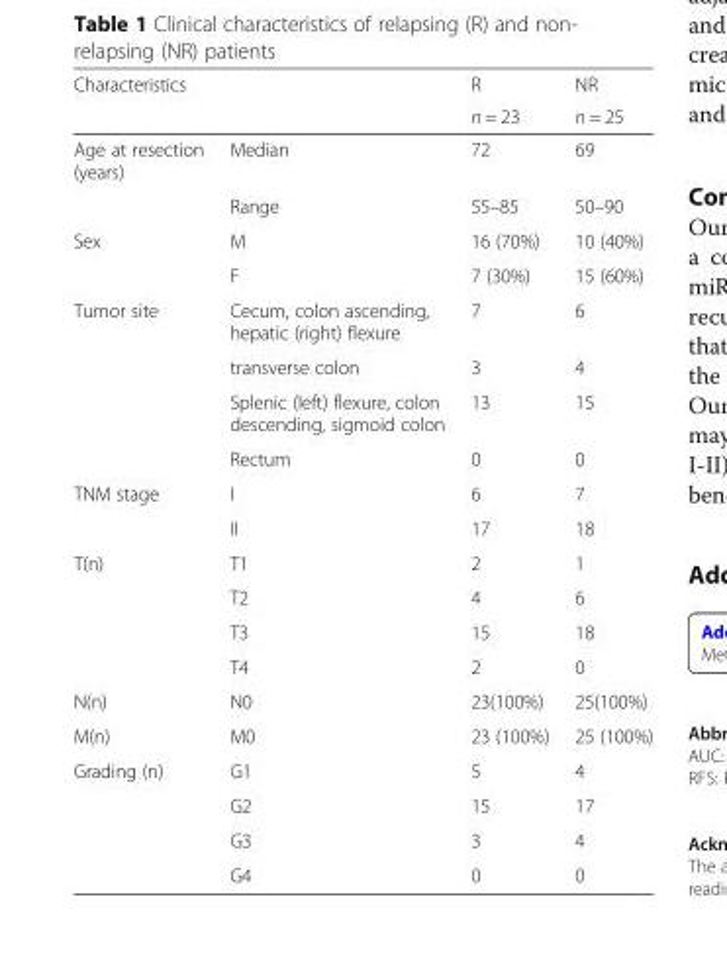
<table><thead><tr><td rowspan="2">Characteristics</td><td rowspan="2"></td><td rowspan="2">R n = 23</td><td rowspan="2">NR n = 25</td></tr><tr></tr></thead><tbody><tr><td rowspan="2">Age at resection (years)</td><td>Median</td><td>72</td><td>69</td></tr><tr><td>Range</td><td>55–85</td><td>50–90</td></tr><tr><td rowspan="2">Sex</td><td>M</td><td>16 (70%)</td><td>10 (40%)</td></tr><tr><td>F</td><td>7 (30%)</td><td>15 (60%)</td></tr><tr><td rowspan="4">Tumor site</td><td>Cecum, colon ascending, hepatic (right) flexure</td><td>7</td><td>6</td></tr><tr><td>transverse colon</td><td>3</td><td>4</td></tr><tr><td>Splenic (left) flexure, colon descending, sigmoid colon</td><td>13</td><td>15</td></tr><tr><td>Rectum</td><td>0</td><td>0</td></tr><tr><td rowspan="2">TNM stage</td><td>I</td><td>6</td><td>7</td></tr><tr><td>II</td><td>17</td><td>18</td></tr><tr><td rowspan="4">T(n)</td><td>T1</td><td>2</td><td>1</td></tr><tr><td>T2</td><td>4</td><td>6</td></tr><tr><td>T3</td><td>15</td><td>18</td></tr><tr><td>T4</td><td>2</td><td>0</td></tr><tr><td>N(n)</td><td>N0</td><td>23(100%)</td><td>25(100%)</td></tr><tr><td>M(n)</td><td>M0</td><td>23 (100%)</td><td>25 (100%)</td></tr><tr><td rowspan="4">Grading (n)</td><td>G1</td><td>5</td><td>4</td></tr><tr><td>G2</td><td>15</td><td>17</td></tr><tr><td>G3</td><td>3</td><td>4</td></tr><tr><td>G4</td><td>0</td><td>0</td></tr></tbody></table>